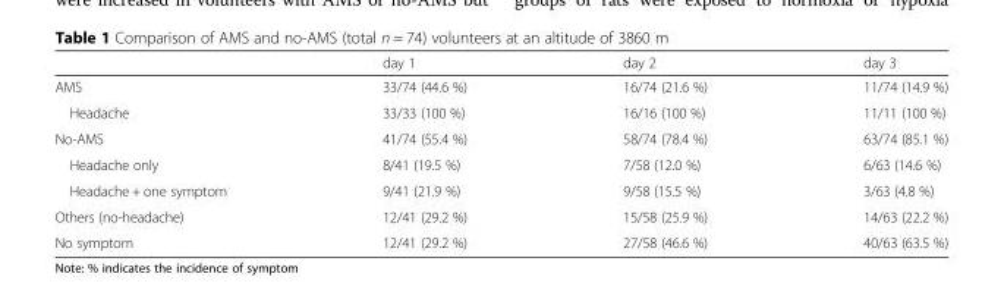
<table><thead><tr><td></td><td>day 1</td><td>day 2</td><td>day 3</td></tr></thead><tbody><tr><td>AMS</td><td>33/74 (44.6 %)</td><td>16/74 (21.6 %)</td><td>11/74 (14.9 %)</td></tr><tr><td>Headache</td><td>33/33 (100 %)</td><td>16/16 (100 %)</td><td>11/11 (100 %)</td></tr><tr><td>No-AMS</td><td>41/74 (55.4 %)</td><td>58/74 (78.4 %)</td><td>63/74 (85.1 %)</td></tr><tr><td>Headache only</td><td>8/41 (19.5 %)</td><td>7/58 (12.0 %)</td><td>6/63 (14.6 %)</td></tr><tr><td>Headache + one symptom</td><td>9/41 (21.9 %)</td><td>9/58 (15.5 %)</td><td>3/63 (4.8 %)</td></tr><tr><td>Others (no-headache)</td><td>12/41 (29.2 %)</td><td>15/58 (25.9 %)</td><td>14/63 (22.2 %)</td></tr><tr><td>No symptom</td><td>12/41 (29.2 %)</td><td>27/58 (46.6 %)</td><td>40/63 (63.5 %)</td></tr></tbody></table>